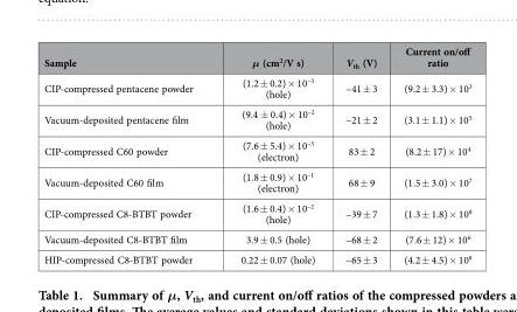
<table><thead><tr><td>Sample</td><td>μ (cm<sup>2</sup>/V s)</td><td>V<sub>th</sub> (V)</td><td>Current on/off ratio</td></tr></thead><tbody><tr><td>CIP-compressed pentacene powder</td><td>(1.2 ± 0.2) × 10<sup>–3</sup> (hole)</td><td>–41 ± 3</td><td>(9.2 ± 3.3) × 10<sup>3</sup></td></tr><tr><td>Vacuum-deposited pentacene film</td><td>(9.4 ± 0.4) × 10<sup>–2</sup> (hole)</td><td>–21 ± 2</td><td>(3.1 ± 1.1) × 10<sup>5</sup></td></tr><tr><td>CIP-compressed C60 powder</td><td>(7.6 ± 5.4) × 10<sup>–3</sup> (electron)</td><td>83 ± 2</td><td>(8.2 ± 17) × 10<sup>4</sup></td></tr><tr><td>Vacuum-deposited C60 film</td><td>(1.8 ± 0.9) × 10<sup>–1</sup> (electron)</td><td>68 ± 9</td><td>(1.5 ± 3.0) × 10<sup>7</sup></td></tr><tr><td>CIP-compressed C8-BTBT powder</td><td>(1.6 ± 0.4) × 10<sup>–2</sup> (hole)</td><td>–39 ± 7</td><td>(1.3 ± 1.8) × 10<sup>8</sup></td></tr><tr><td>Vacuum-deposited C8-BTBT film</td><td>3.9 ± 0.5 (hole)</td><td>–68 ± 2</td><td>(7.6 ± 12) × 10<sup>6</sup></td></tr><tr><td>HIP-compressed C8-BTBT powder</td><td>0.22 ± 0.07 (hole)</td><td>–65 ± 3</td><td>(4.2 ± 4.5) × 10<sup>8</sup></td></tr></tbody></table>